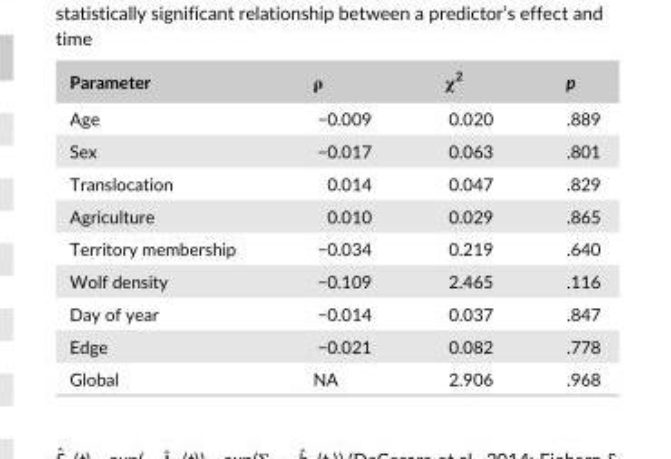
<table><thead><tr><td>Parameter</td><td>ρ</td><td>χ<sup>2</sup></td><td>p</td></tr></thead><tbody><tr><td>Age</td><td>−0.009</td><td>0.020</td><td>.889</td></tr><tr><td>Sex</td><td>−0.017</td><td>0.063</td><td>.801</td></tr><tr><td>Translocation</td><td>0.014</td><td>0.047</td><td>.829</td></tr><tr><td>Agriculture</td><td>0.010</td><td>0.029</td><td>.865</td></tr><tr><td>Territory membership</td><td>−0.034</td><td>0.219</td><td>.640</td></tr><tr><td>Wolf density</td><td>−0.109</td><td>2.465</td><td>.116</td></tr><tr><td>Day of year</td><td>−0.014</td><td>0.037</td><td>.847</td></tr><tr><td>Edge</td><td>−0.021</td><td>0.082</td><td>.778</td></tr><tr><td>Global</td><td>NA</td><td>2.906</td><td>.968</td></tr></tbody></table>